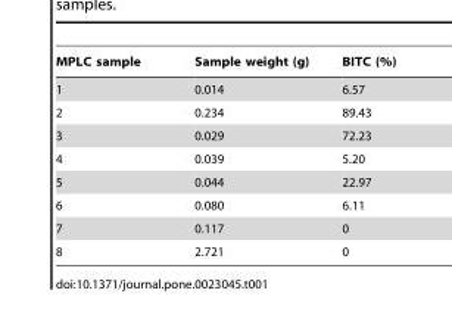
<table><thead><tr><td>MPLC sample</td><td>Sample weight (g)</td><td>BITC (%)</td></tr></thead><tbody><tr><td>1</td><td>0.014</td><td>6.57</td></tr><tr><td>2</td><td>0.234</td><td>89.43</td></tr><tr><td>3</td><td>0.029</td><td>72.23</td></tr><tr><td>4</td><td>0.039</td><td>5.20</td></tr><tr><td>5</td><td>0.044</td><td>22.97</td></tr><tr><td>6</td><td>0.080</td><td>6.11</td></tr><tr><td>7</td><td>0.117</td><td>0</td></tr><tr><td>8</td><td>2.721</td><td>0</td></tr></tbody></table>